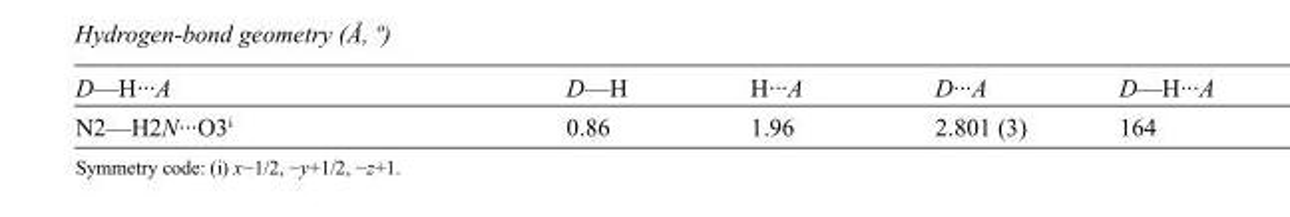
<table><tbody><tr><td>D—H···A</td><td>D—H</td><td>H···A</td><td>D···A</td><td>D—H···A</td></tr><tr><td>N2—H2N···O3<sup>i</sup></td><td>0.86</td><td>1.96</td><td>2.801 (3)</td><td>164</td></tr></tbody></table>